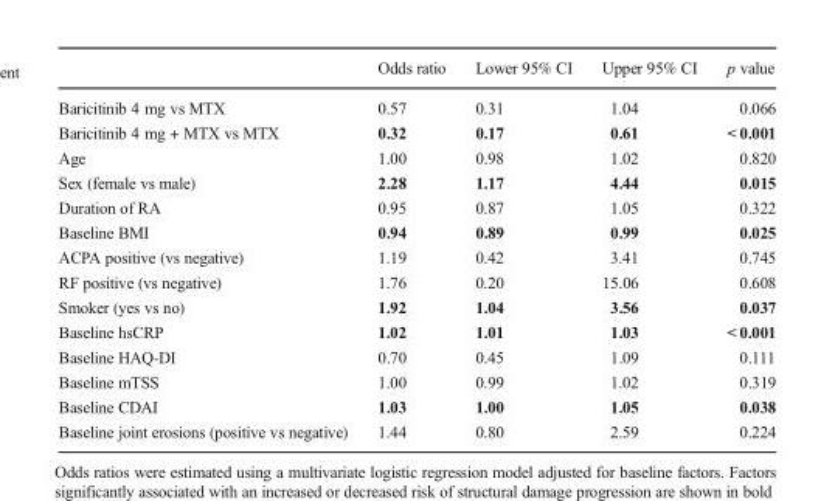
<table><thead><tr><td></td><td>Odds ratio</td><td>Lower 95% CI</td><td>Upper 95% CI</td><td>p value</td></tr></thead><tbody><tr><td>Baricitinib 4 mg vs MTX</td><td>0.57</td><td>0.31</td><td>1.04</td><td>0.066</td></tr><tr><td>Baricitinib 4 mg + MTX vs MTX</td><td>0.32</td><td>0.17</td><td>0.61</td><td>&lt; 0.001</td></tr><tr><td>Age</td><td>1.00</td><td>0.98</td><td>1.02</td><td>0.820</td></tr><tr><td>Sex (female vs male)</td><td>2.28</td><td>1.17</td><td>4.44</td><td>0.015</td></tr><tr><td>Duration of RA</td><td>0.95</td><td>0.87</td><td>1.05</td><td>0.322</td></tr><tr><td>Baseline BMI</td><td>0.94</td><td>0.89</td><td>0.99</td><td>0.025</td></tr><tr><td>ACPA positive (vs negative)</td><td>1.19</td><td>0.42</td><td>3.41</td><td>0.745</td></tr><tr><td>RF positive (vs negative)</td><td>1.76</td><td>0.20</td><td>15.06</td><td>0.608</td></tr><tr><td>Smoker (yes vs no)</td><td>1.92</td><td>1.04</td><td>3.56</td><td>0.037</td></tr><tr><td>Baseline hsCRP</td><td>1.02</td><td>1.01</td><td>1.03</td><td>&lt; 0.001</td></tr><tr><td>Baseline HAQ-DI</td><td>0.70</td><td>0.45</td><td>1.09</td><td>0.111</td></tr><tr><td>Baseline mTSS</td><td>1.00</td><td>0.99</td><td>1.02</td><td>0.319</td></tr><tr><td>Baseline CDAI</td><td>1.03</td><td>1.00</td><td>1.05</td><td>0.038</td></tr><tr><td>Baseline joint erosions (positive vs negative)</td><td>1.44</td><td>0.80</td><td>2.59</td><td>0.224</td></tr></tbody></table>